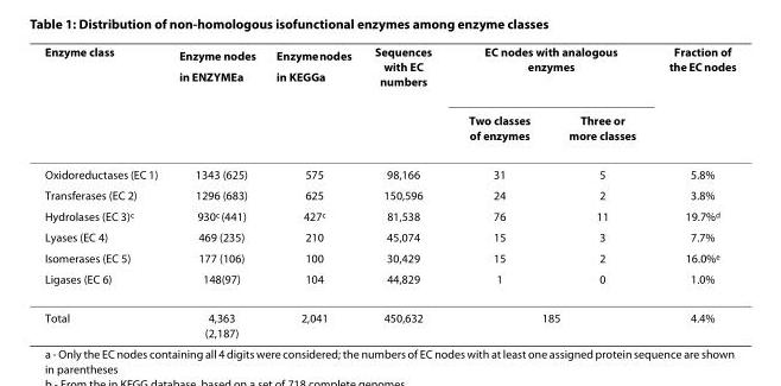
<table><thead><tr><td rowspan="2">Enzyme class</td><td rowspan="2">Enzyme nodes in ENZYME<sup>a</sup></td><td rowspan="2">Enzyme nodes in KEGG<sup>a</sup></td><td rowspan="2">Sequences with EC numbers</td><td colspan="2">EC nodes with analogous enzymes</td><td rowspan="2">Fraction of the EC nodes</td></tr><tr><td>Two classes of enzymes</td><td>Three or more classes</td></tr></thead><tbody><tr><td>Oxidoreductases (EC 1)</td><td>1343 (625)</td><td>575</td><td>98,166</td><td>31</td><td>5</td><td>5.8%</td></tr><tr><td>Transferases (EC 2)</td><td>1296 (683)</td><td>625</td><td>150,596</td><td>24</td><td>2</td><td>3.8%</td></tr><tr><td>Hydrolases (EC 3)<sup>c</sup></td><td>930<sup>c</sup> (441)</td><td>427<sup>c</sup></td><td>81,538</td><td>76</td><td>11</td><td>19.7%<sup>d</sup></td></tr><tr><td>Lyases (EC 4)</td><td>469 (235)</td><td>210</td><td>45,074</td><td>15</td><td>3</td><td>7.7%</td></tr><tr><td>Isomerases (EC 5)</td><td>177 (106)</td><td>100</td><td>30,429</td><td>15</td><td>2</td><td>16.0%<sup>e</sup></td></tr><tr><td>Ligases (EC 6)</td><td>148(97)</td><td>104</td><td>44,829</td><td>1</td><td>0</td><td>1.0%</td></tr><tr><td>Total</td><td>4,363 (2,187)</td><td>2,041</td><td>450,632</td><td colspan="2">185</td><td>4.4%</td></tr></tbody></table>